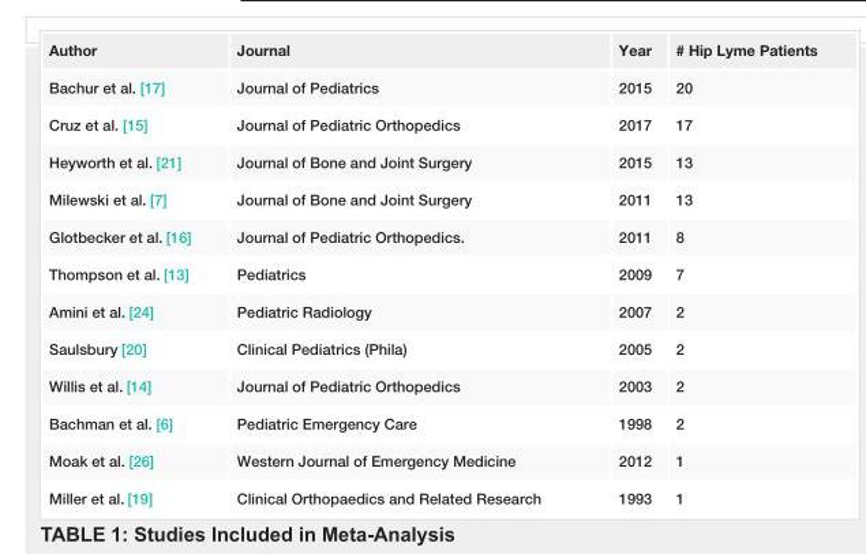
<table><tbody><tr><td>Author</td><td>Journal</td><td>Year</td><td># Hip Lyme Patients</td></tr><tr><td>Bachur et al. [17]</td><td>Journal of Pediatrics</td><td>2015</td><td>20</td></tr><tr><td>Cruz et al. [15]</td><td>Journal of Pediatric Orthopedics</td><td>2017</td><td>17</td></tr><tr><td>Heyworth et al. [21]</td><td>Journal of Bone and Joint Surgery</td><td>2015</td><td>13</td></tr><tr><td>Milewski et al. [7]</td><td>Journal of Bone and Joint Surgery</td><td>2011</td><td>13</td></tr><tr><td>Glotbecker et al. [16]</td><td>Journal of Pediatric Orthopedics.</td><td>2011</td><td>8</td></tr><tr><td>Thompson et al. [13]</td><td>Pediatrics</td><td>2009</td><td>7</td></tr><tr><td>Amini et al. [24]</td><td>Pediatric Radiology</td><td>2007</td><td>2</td></tr><tr><td>Saulsbury [20]</td><td>Clinical Pediatrics (Phila)</td><td>2005</td><td>2</td></tr><tr><td>Willis et al. [14]</td><td>Journal of Pediatric Orthopedics</td><td>2003</td><td>2</td></tr><tr><td>Bachman et al. [6]</td><td>Pediatric Emergency Care</td><td>1998</td><td>2</td></tr><tr><td>Moak et al. [26]</td><td>Western Journal of Emergency Medicine</td><td>2012</td><td>1</td></tr><tr><td>Miller et al. [19]</td><td>Clinical Orthopaedics and Related Research</td><td>1993</td><td>1</td></tr></tbody></table>